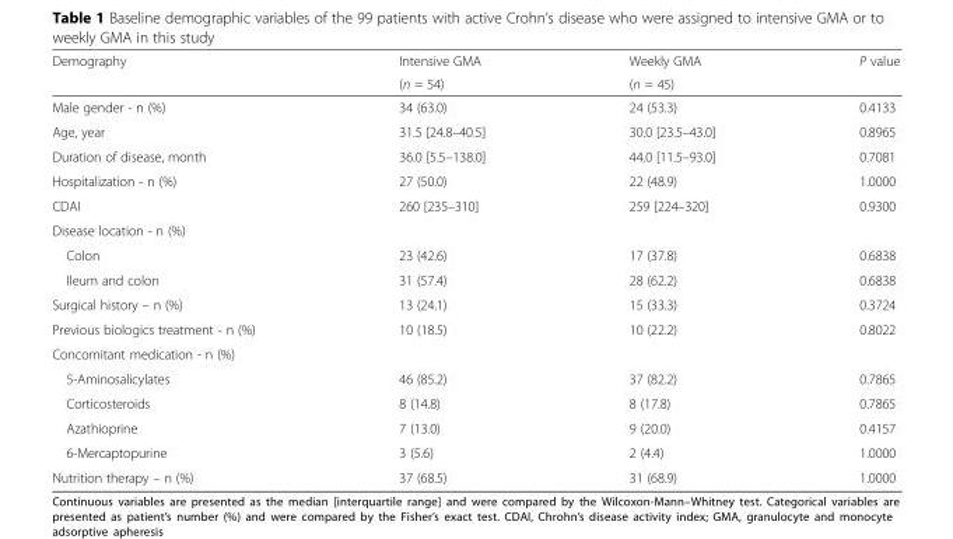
<table><thead><tr><td rowspan="2">Demography</td><td rowspan="2">Intensive GMA (n = 54)</td><td rowspan="2">Weekly GMA (n = 45)</td><td rowspan="2">P value</td></tr><tr></tr></thead><tbody><tr><td>Male gender - n (%)</td><td>34 (63.0)</td><td>24 (53.3)</td><td>0.4133</td></tr><tr><td>Age, year</td><td>31.5 [24.8–40.5]</td><td>30.0 [23.5–43.0]</td><td>0.8965</td></tr><tr><td>Duration of disease, month</td><td>36.0 [5.5–138.0]</td><td>44.0 [11.5–93.0]</td><td>0.7081</td></tr><tr><td>Hospitalization - n (%)</td><td>27 (50.0)</td><td>22 (48.9)</td><td>1.0000</td></tr><tr><td>CDAI</td><td>260 [235–310]</td><td>259 [224–320]</td><td>0.9300</td></tr><tr><td colspan="4">Disease location - n (%)</td></tr><tr><td>Colon</td><td>23 (42.6)</td><td>17 (37.8)</td><td>0.6838</td></tr><tr><td>Ileum and colon</td><td>31 (57.4)</td><td>28 (62.2)</td><td>0.6838</td></tr><tr><td>Surgical history – n (%)</td><td>13 (24.1)</td><td>15 (33.3)</td><td>0.3724</td></tr><tr><td>Previous biologics treatment - n (%)</td><td>10 (18.5)</td><td>10 (22.2)</td><td>0.8022</td></tr><tr><td colspan="4">Concomitant medication - n (%)</td></tr><tr><td>5-Aminosalicylates</td><td>46 (85.2)</td><td>37 (82.2)</td><td>0.7865</td></tr><tr><td>Corticosteroids</td><td>8 (14.8)</td><td>8 (17.8)</td><td>0.7865</td></tr><tr><td>Azathioprine</td><td>7 (13.0)</td><td>9 (20.0)</td><td>0.4157</td></tr><tr><td>6-Mercaptopurine</td><td>3 (5.6)</td><td>2 (4.4)</td><td>1.0000</td></tr><tr><td>Nutrition therapy – n (%)</td><td>37 (68.5)</td><td>31 (68.9)</td><td>1.0000</td></tr></tbody></table>